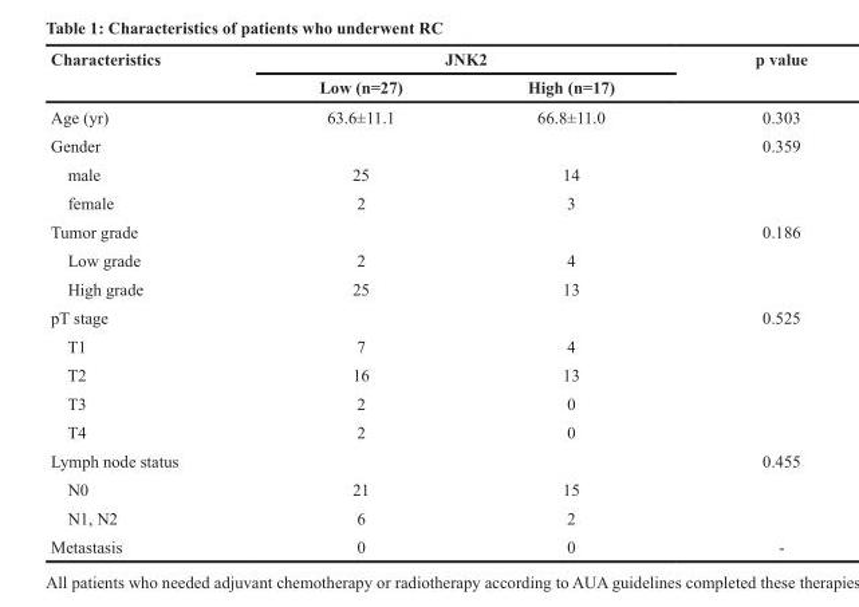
<table><thead><tr><td rowspan="2">Characteristics</td><td colspan="2">JNK2</td><td rowspan="2">p value</td></tr><tr><td>Low (n=27)</td><td>High (n=17)</td></tr></thead><tbody><tr><td>Age (yr)</td><td>63.6±11.1</td><td>66.8±11.0</td><td>0.303</td></tr><tr><td>Gender</td><td></td><td></td><td>0.359</td></tr><tr><td>male</td><td>25</td><td>14</td><td></td></tr><tr><td>female</td><td>2</td><td>3</td><td></td></tr><tr><td>Tumor grade</td><td></td><td></td><td>0.186</td></tr><tr><td>Low grade</td><td>2</td><td>4</td><td></td></tr><tr><td>High grade</td><td>25</td><td>13</td><td></td></tr><tr><td>pT stage</td><td></td><td></td><td>0.525</td></tr><tr><td>T1</td><td>7</td><td>4</td><td></td></tr><tr><td>T2</td><td>16</td><td>13</td><td></td></tr><tr><td>T3</td><td>2</td><td>0</td><td></td></tr><tr><td>T4</td><td>2</td><td>0</td><td></td></tr><tr><td>Lymph node status</td><td></td><td></td><td>0.455</td></tr><tr><td>N0</td><td>21</td><td>15</td><td></td></tr><tr><td>N1, N2</td><td>6</td><td>2</td><td></td></tr><tr><td>Metastasis</td><td>0</td><td>0</td><td>-</td></tr></tbody></table>